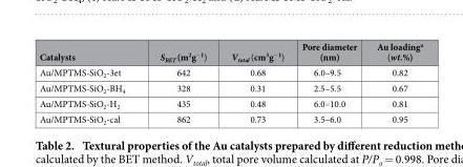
<table><thead><tr><td>Catalysts</td><td>S<sub>BET</sub> (m<sup>2</sup>g<sup>−1</sup>)</td><td>V<sub>total</sub> (cm<sup>3</sup>g<sup>−1</sup>)</td><td>Pore diameter (nm)</td><td>Au loading<sup>a</sup> (wt.%)</td></tr></thead><tbody><tr><td>Au/MPTMS-SiO<sub>2</sub>-3et</td><td>642</td><td>0.68</td><td>6.0–9.5</td><td>0.82</td></tr><tr><td>Au/MPTMS-SiO<sub>2</sub>-BH<sub>4</sub></td><td>328</td><td>0.31</td><td>2.5–5.5</td><td>0.67</td></tr><tr><td>Au/MPTMS-SiO<sub>2</sub>-H<sub>2</sub></td><td>435</td><td>0.48</td><td>6.0–10.0</td><td>0.81</td></tr><tr><td>Au/MPTMS-SiO<sub>2</sub>-cal</td><td>862</td><td>0.73</td><td>3.5–6.0</td><td>0.95</td></tr></tbody></table>